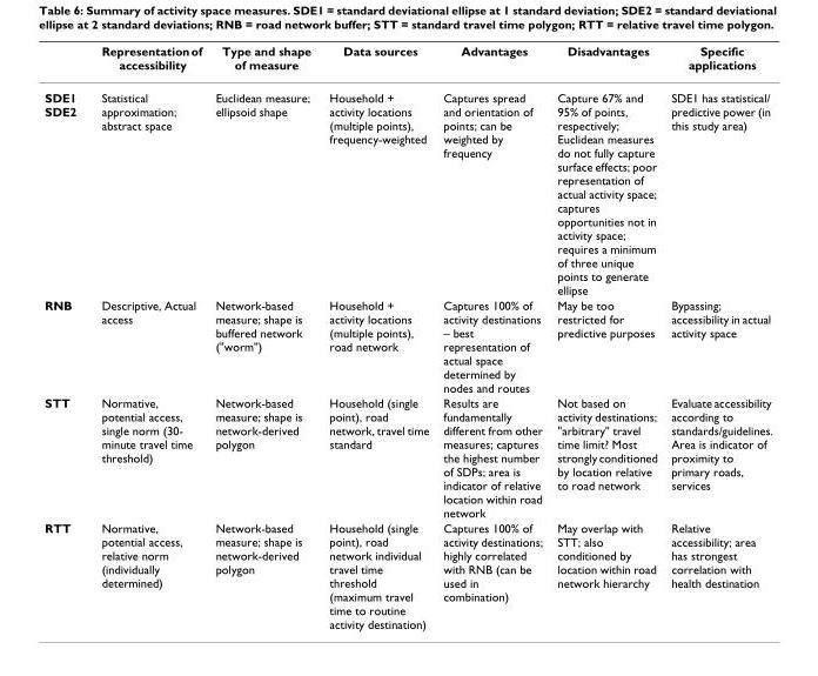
<table><thead><tr><td></td><td>Representation of accessibility</td><td>Type and shape of measure</td><td>Data sources</td><td>Advantages</td><td>Disadvantages</td><td>Specific applications</td></tr></thead><tbody><tr><td>SDE1 SDE2</td><td>Statistical approximation; abstract space</td><td>Euclidean measure; ellipsoid shape</td><td>Household + activity locations (multiple points), frequency-weighted</td><td>Captures spread and orientation of points; can be weighted by frequency</td><td>Capture 67% and 95% of points, respectively; Euclidean measures do not fully capture surface effects; poor representation of actual activity space; captures opportunities not in activity space; requires a minimum of three unique points to generate ellipse</td><td>SDE1 has statistical/ predictive power (in this study area)</td></tr><tr><td>RNB</td><td>Descriptive, Actual access</td><td>Network-based measure; shape is buffered network (&quot;worm&quot;)</td><td>Household + activity locations (multiple points), road network</td><td>Captures 100% of activity destinations – best representation of actual space determined by nodes and routes</td><td>May be too restricted for predictive purposes</td><td>Bypassing; accessibility in actual activity space</td></tr><tr><td>STT</td><td>Normative, potential access, single norm (30- minute travel time threshold)</td><td>Network-based measure; shape is network-derived polygon</td><td>Household (single point), road network, travel time standard</td><td>Results are fundamentally different from other measures; captures the highest number of SDPs; area is indicator of relative location within road network</td><td>Not based on activity destinations; &quot;arbitrary&quot; travel time limit? Most strongly conditioned by location relative to road network</td><td>Evaluate accessibility according to standards/guidelines. Area is indicator of proximity to primary roads, services</td></tr><tr><td>RTT</td><td>Normative, potential access, relative norm (individually determined)</td><td>Network-based measure; shape is network-derived polygon</td><td>Household (single point), road network individual travel time threshold (maximum travel time to routine activity destination)</td><td>Captures 100% of activity destinations; highly correlated with RNB (can be used in combination)</td><td>May overlap with STT; also conditioned by location within road network hierarchy</td><td>Relative accessibility; area has strongest correlation with health destination</td></tr></tbody></table>